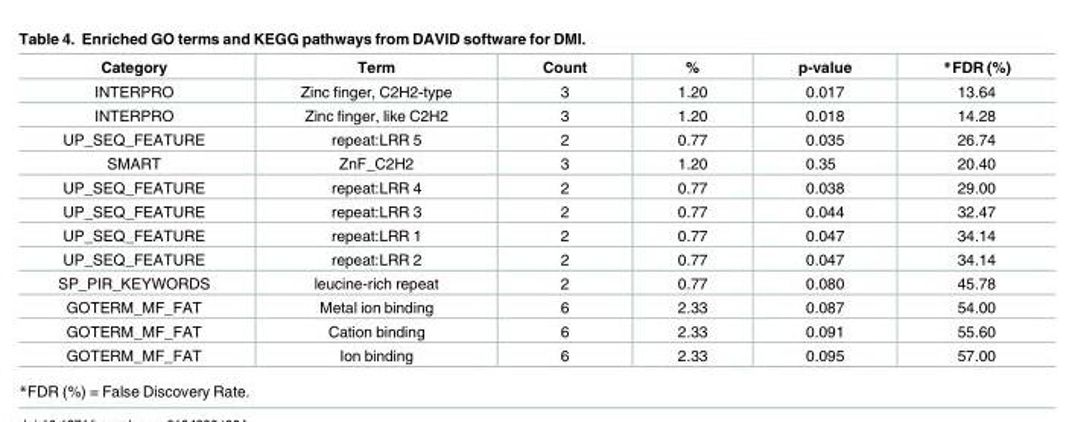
<table><thead><tr><td>Category</td><td>Term</td><td>Count</td><td>%</td><td>p-value</td><td>*FDR (%)</td></tr></thead><tbody><tr><td>INTERPRO</td><td>Zinc finger, C2H2-type</td><td>3</td><td>1.20</td><td>0.017</td><td>13.64</td></tr><tr><td>INTERPRO</td><td>Zinc finger, like C2H2</td><td>3</td><td>1.20</td><td>0.018</td><td>14.28</td></tr><tr><td>UP_SEQ_FEATURE</td><td>repeat:LRR 5</td><td>2</td><td>0.77</td><td>0.035</td><td>26.74</td></tr><tr><td>SMART</td><td>ZnF_C2H2</td><td>3</td><td>1.20</td><td>0.35</td><td>20.40</td></tr><tr><td>UP_SEQ_FEATURE</td><td>repeat:LRR 4</td><td>2</td><td>0.77</td><td>0.038</td><td>29.00</td></tr><tr><td>UP_SEQ_FEATURE</td><td>repeat:LRR 3</td><td>2</td><td>0.77</td><td>0.044</td><td>32.47</td></tr><tr><td>UP_SEQ_FEATURE</td><td>repeat:LRR 1</td><td>2</td><td>0.77</td><td>0.047</td><td>34.14</td></tr><tr><td>UP_SEQ_FEATURE</td><td>repeat:LRR 2</td><td>2</td><td>0.77</td><td>0.047</td><td>34.14</td></tr><tr><td>SP_PIR_KEYWORDS</td><td>leucine-rich repeat</td><td>2</td><td>0.77</td><td>0.080</td><td>45.78</td></tr><tr><td>GOTERM_MF_FAT</td><td>Metal ion binding</td><td>6</td><td>2.33</td><td>0.087</td><td>54.00</td></tr><tr><td>GOTERM_MF_FAT</td><td>Cation binding</td><td>6</td><td>2.33</td><td>0.091</td><td>55.60</td></tr><tr><td>GOTERM_MF_FAT</td><td>Ion binding</td><td>6</td><td>2.33</td><td>0.095</td><td>57.00</td></tr></tbody></table>